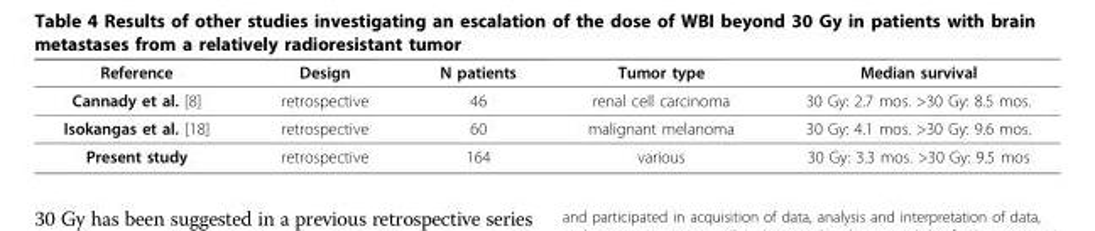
<table><thead><tr><td>Reference</td><td>Design</td><td>N patients</td><td>Tumor type</td><td>Median survival</td></tr></thead><tbody><tr><td>Cannady et al. [8]</td><td>retrospective</td><td>46</td><td>renal cell carcinoma</td><td>30 Gy: 2.7 mos. &gt;30 Gy: 8.5 mos.</td></tr><tr><td>Isokangas et al. [18]</td><td>retrospective</td><td>60</td><td>malignant melanoma</td><td>30 Gy: 4.1 mos. &gt;30 Gy: 9.6 mos.</td></tr><tr><td>Present study</td><td>retrospective</td><td>164</td><td>various</td><td>30 Gy: 3.3 mos. &gt;30 Gy: 9.5 mos</td></tr></tbody></table>